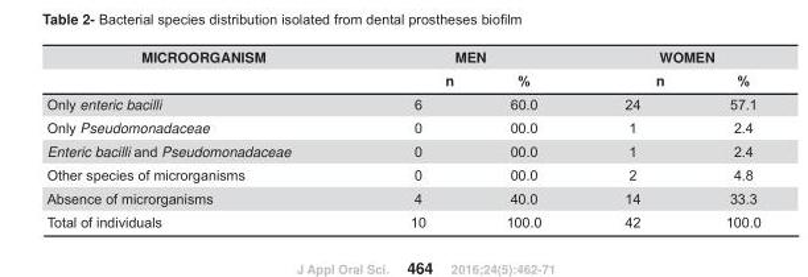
<table><thead><tr><td rowspan="2">MICROORGANISM</td><td colspan="2">MEN</td><td colspan="2">WOMEN</td></tr><tr><td>n</td><td>%</td><td>n</td><td>%</td></tr></thead><tbody><tr><td>Only enteric bacilli</td><td>6</td><td>60.0</td><td>24</td><td>57.1</td></tr><tr><td>Only Pseudomonadaceae</td><td>0</td><td>00.0</td><td>1</td><td>2.4</td></tr><tr><td>Enteric bacilli and Pseudomonadaceae</td><td>0</td><td>00.0</td><td>1</td><td>2.4</td></tr><tr><td>Other species of microrganisms</td><td>0</td><td>00.0</td><td>2</td><td>4.8</td></tr><tr><td>Absence of microrganisms</td><td>4</td><td>40.0</td><td>14</td><td>33.3</td></tr><tr><td>Total of individuals</td><td>10</td><td>100.0</td><td>42</td><td>100.0</td></tr></tbody></table>